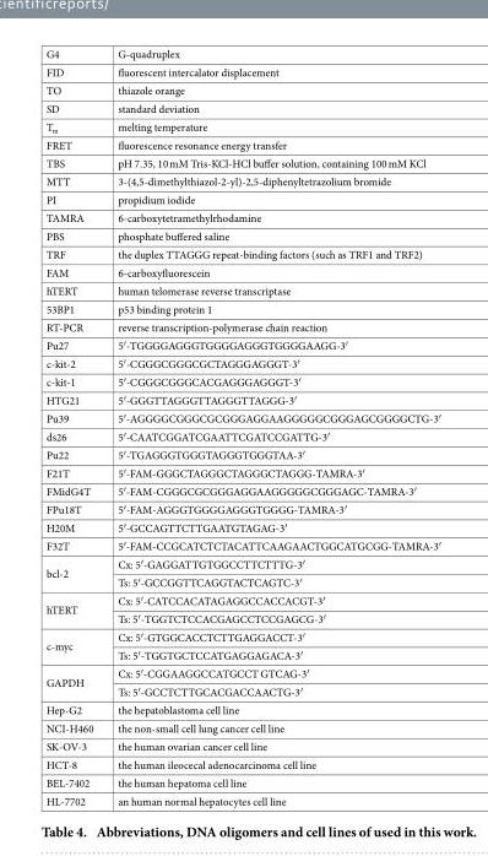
<table><thead><tr><td>G4</td><td>G-quadruplex</td></tr></thead><tbody><tr><td>FID</td><td>fluorescent intercalator displacement</td></tr><tr><td>TO</td><td>thiazole orange</td></tr><tr><td>SD</td><td>standard deviation</td></tr><tr><td>T<sub>m</sub></td><td>melting temperature</td></tr><tr><td>FRET</td><td>fluorescence resonance energy transfer</td></tr><tr><td>TBS</td><td>pH 7.35, 10 mM Tris-KCl-HCl buffer solution, containing 100 mM KCl</td></tr><tr><td>MTT</td><td>3-(4,5-dimethylthiazol-2-yl)-2,5-diphenyltetrazolium bromide</td></tr><tr><td>PI</td><td>propidium iodide</td></tr><tr><td>TAMRA</td><td>6-carboxytetramethylrhodamine</td></tr><tr><td>PBS</td><td>phosphate buffered saline</td></tr><tr><td>TRF</td><td>the duplex TTAGGG repeat-binding factors (such as TRF1 and TRF2)</td></tr><tr><td>FAM</td><td>6-carboxyfluorescein</td></tr><tr><td>hTERT</td><td>human telomerase reverse transcriptase</td></tr><tr><td>53BP1</td><td>p53 binding protein 1</td></tr><tr><td>RT-PCR</td><td>reverse transcription-polymerase chain reaction</td></tr><tr><td>Pu27</td><td>5′ -TGGGGAGGGTGGGGAGGGTGGGGAAGG-3′</td></tr><tr><td>c-kit-2</td><td>5′ -CGGGCGGGCGCTAGGGAGGGT-3′</td></tr><tr><td>c-kit-1</td><td>5′ -CGGGCGGGCACGAGGGAGGGT-3′</td></tr><tr><td>HTG21</td><td>5′ -GGGTTAGGGTTAGGGTTAGGG-3′</td></tr><tr><td>Pu39</td><td>5′ -AGGGGCGGGCGCGGGAGGAAGGGGGCGGGAGCGGGGCTG-3′</td></tr><tr><td>ds26</td><td>5′ -CAATCGGATCGAATTCGATCCGATTG-3′</td></tr><tr><td>Pu22</td><td>5′ -TGAGGGTGGGTAGGGTGGGTAA-3′</td></tr><tr><td>F21T</td><td>5′ -FAM-GGGCTAGGGCTAGGGCTAGGG-TAMRA-3′</td></tr><tr><td>FMidG4T</td><td>5′ -FAM-CGGGCGCGGGAGGAAGGGGGCGGGAGC-TAMRA-3′</td></tr><tr><td>FPu18T</td><td>5′ -FAM-AGGGTGGGGAGGGTGGGG-TAMRA-3′</td></tr><tr><td>H20M</td><td>5′ -GCCAGTTCTTGAATGTAGAG-3′</td></tr><tr><td>F32T</td><td>5′ -FAM-CCGCATCTCTACATTCAAGAACTGGCATGCGG-TAMRA-3′</td></tr><tr><td rowspan="2">bcl-2</td><td>Cx: 5′ -GAGGATTGTGGCCTTCTTTG-3′</td></tr><tr><td>Ts: 5′ -GCCGGTTCAGGTACTCAGTC-3′</td></tr><tr><td rowspan="2">hTERT</td><td>Cx: 5′ -CATCCACATAGAGGCCACCACGT-3′</td></tr><tr><td>Ts: 5′ -TGGTCTCCACGAGCCTCCGAGCG-3′</td></tr><tr><td rowspan="2">c-myc</td><td>Cx: 5′ -GTGGCACCTCTTGAGGACCT-3′</td></tr><tr><td>Ts: 5′ -TGGTGCTCCATGAGGAGACA-3′</td></tr><tr><td rowspan="2">GAPDH</td><td>Cx: 5′ -CGGAAGGCCATGCCT GTCAG-3′</td></tr><tr><td>Ts: 5′ -GCCTCTTGCACGACCAACTG-3′</td></tr><tr><td>Hep-G2</td><td>the hepatoblastoma cell line</td></tr><tr><td>NCI-H460</td><td>the non-small cell lung cancer cell line</td></tr><tr><td>SK-OV-3</td><td>the human ovarian cancer cell line</td></tr><tr><td>HCT-8</td><td>the human ileocecal adenocarcinoma cell line</td></tr><tr><td>BEL-7402</td><td>the human hepatoma cell line</td></tr><tr><td>HL-7702</td><td>an human normal hepatocytes cell line</td></tr></tbody></table>